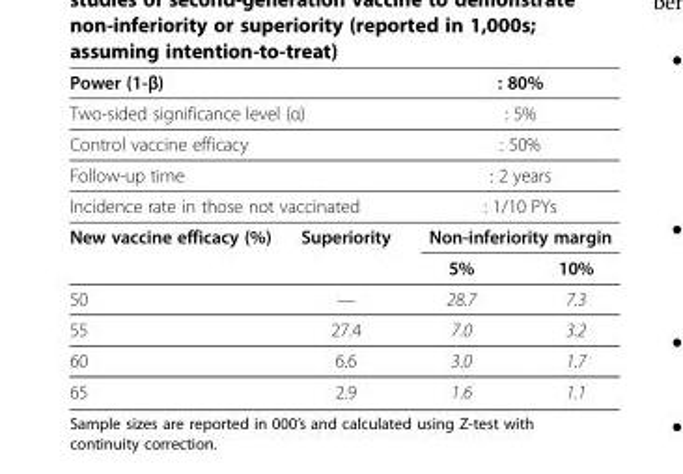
<table><thead><tr><td colspan="2">Power (1-β)</td><td colspan="2">: 80%</td></tr></thead><tbody><tr><td colspan="2">Two-sided significance level (α)</td><td colspan="2">: 5%</td></tr><tr><td colspan="2">Control vaccine efficacy</td><td colspan="2">: 50%</td></tr><tr><td colspan="2">Follow-up time</td><td colspan="2">: 2 years</td></tr><tr><td colspan="2">Incidence rate in those not vaccinated</td><td colspan="2">: 1/10 PYs</td></tr><tr><td rowspan="2">New vaccine efficacy (%)</td><td>Superiority</td><td colspan="2">Non-inferiority margin</td></tr><tr><td></td><td>5%</td><td>10%</td></tr><tr><td>50</td><td>—</td><td>28.7</td><td>7.3</td></tr><tr><td>55</td><td>27.4</td><td>7.0</td><td>3.2</td></tr><tr><td>60</td><td>6.6</td><td>3.0</td><td>1.7</td></tr><tr><td>65</td><td>2.9</td><td>1.6</td><td>1.1</td></tr></tbody></table>